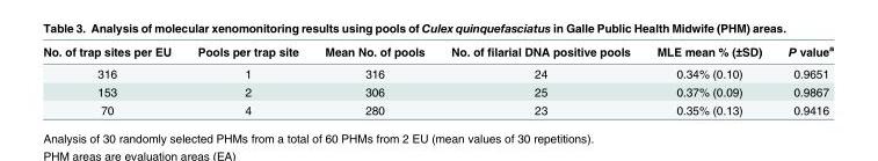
<table><thead><tr><td>No. of trap sites per EU</td><td>Pools per trap site</td><td>Mean No. of pools</td><td>No. of filarial DNA positive pools</td><td>MLE mean % (±SD)</td><td>P value<sup>a</sup></td></tr></thead><tbody><tr><td>316</td><td>1</td><td>316</td><td>24</td><td>0.34% (0.10)</td><td>0.9651</td></tr><tr><td>153</td><td>2</td><td>306</td><td>25</td><td>0.37% (0.09)</td><td>0.9867</td></tr><tr><td>70</td><td>4</td><td>280</td><td>23</td><td>0.35% (0.13)</td><td>0.9416</td></tr></tbody></table>